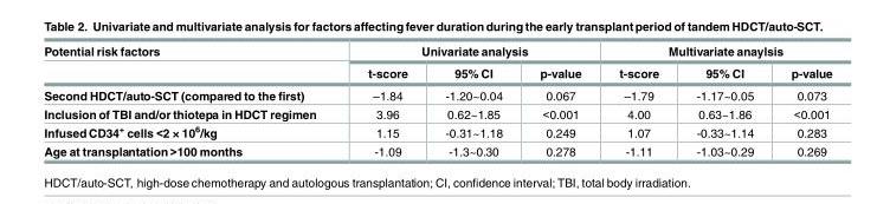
<table><thead><tr><td rowspan="2">Potential risk factors</td><td colspan="3">Univariate analysis</td><td colspan="3">Multivariate anaylsis</td></tr><tr><td>t-score</td><td>95% CI</td><td>p-value</td><td>t-score</td><td>95% CI</td><td>p-value</td></tr></thead><tbody><tr><td>Second HDCT/auto-SCT (compared to the first)</td><td>–1.84</td><td>-1.20~0.04</td><td>0.067</td><td>–1.79</td><td>-1.17~0.05</td><td>0.073</td></tr><tr><td>Inclusion of TBI and/or thiotepa in HDCT regimen</td><td>3.96</td><td>0.62~1.85</td><td>&lt;0.001</td><td>4.00</td><td>0.63~1.86</td><td>&lt;0.001</td></tr><tr><td>Infused CD34<sup>+</sup> cells &lt;2 × 10<sup>6</sup>/kg</td><td>1.15</td><td>-0.31~1.18</td><td>0.249</td><td>1.07</td><td>-0.33~1.14</td><td>0.283</td></tr><tr><td>Age at transplantation &gt;100 months</td><td>-1.09</td><td>-1.3~0.30</td><td>0.278</td><td>-1.11</td><td>-1.03~0.29</td><td>0.269</td></tr></tbody></table>